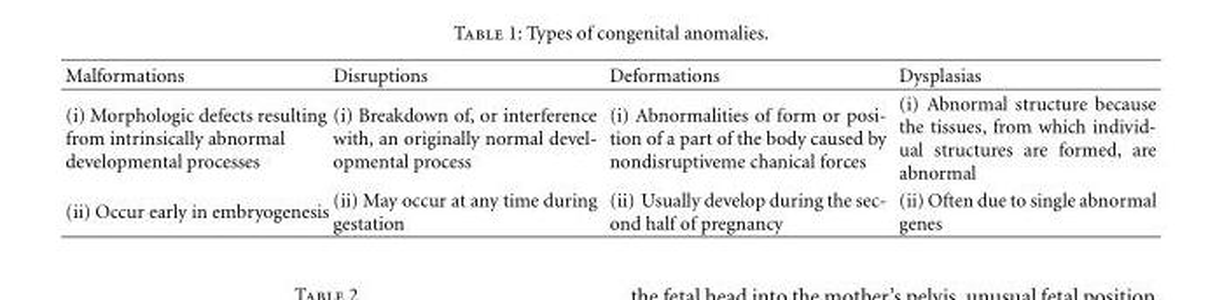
<table><thead><tr><td>Malformations</td><td>Disruptions</td><td>Deformations</td><td>Dysplasias</td></tr></thead><tbody><tr><td>(i) Morphologic defects resulting from intrinsically abnormal developmental processes</td><td>(i) Breakdown of, or interference with, an originally normal devel- opmental process</td><td>(i) Abnormalities of form or posi- tion of a part of the body caused by nondisruptiveme chanical forces</td><td>(i) Abnormal structure because the tissues, from which individ- ual structures are formed, are abnormal</td></tr><tr><td>(ii) Occur early in embryogenesis</td><td>(ii) May occur at any time during gestation</td><td>(ii) Usually develop during the sec- ond half of pregnancy</td><td>(ii) Often due to single abnormal genes</td></tr></tbody></table>